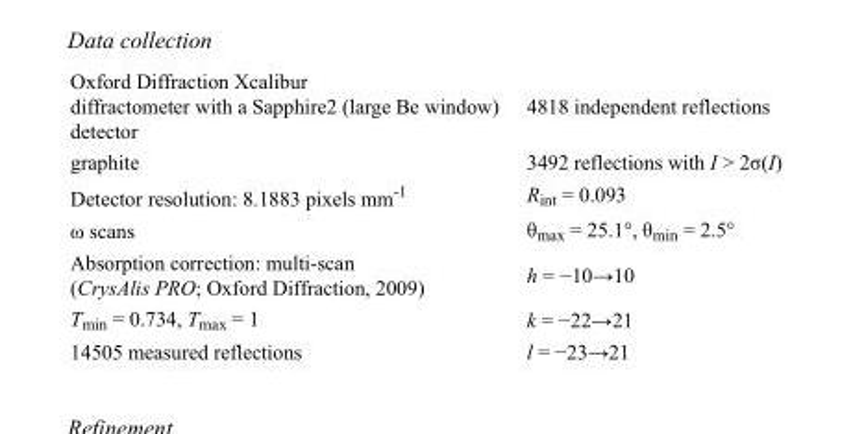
<table><tbody><tr><td>Oxford Diffraction Xcalibur diffractometer with a Sapphire2 (large Be window) detector</td><td>4818 independent reflections</td></tr><tr><td>graphite</td><td>3492 reflections with I &gt; 2σ(I)</td></tr><tr><td>Detector resolution: 8.1883 pixels mm<sup>-1</sup></td><td>R<sub>int</sub> = 0.093</td></tr><tr><td>ω scans</td><td>θ<sub>max</sub> = 25.1°, θ<sub>min</sub> = 2.5°</td></tr><tr><td>Absorption correction: multi-scan (CrysAlis PRO; Oxford Diffraction, 2009)</td><td>h = −10→10</td></tr><tr><td>T<sub>min</sub> = 0.734, T<sub>max</sub> = 1</td><td>k = −22→21</td></tr><tr><td>14505 measured reflections</td><td>l = −23→21</td></tr></tbody></table>